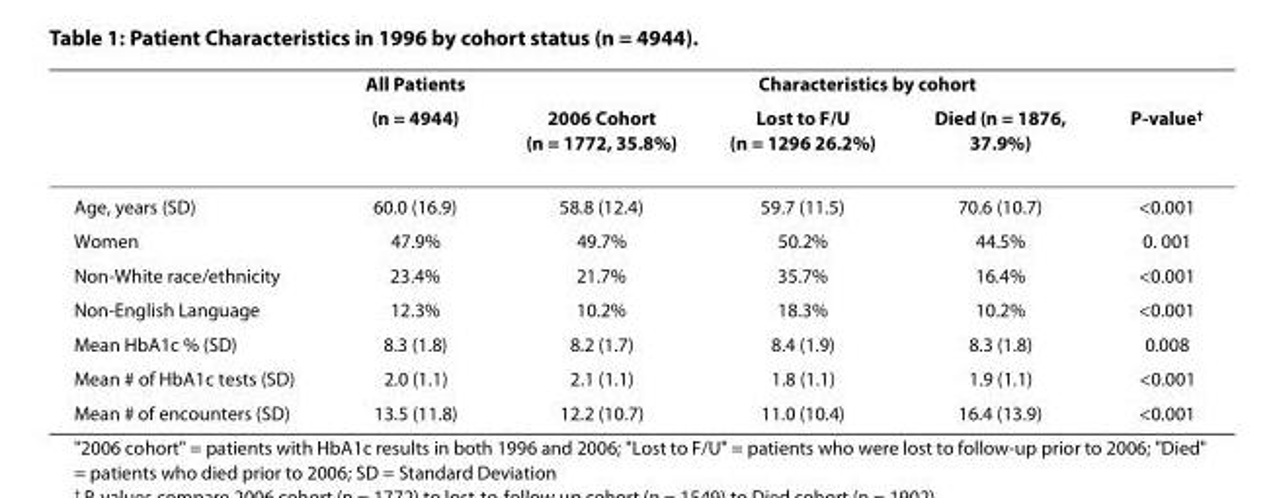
<table><thead><tr><td rowspan="2"></td><td rowspan="2">All Patients (n = 4944)</td><td colspan="4">Characteristics by cohort</td></tr><tr><td>2006 Cohort (n = 1772, 35.8%)</td><td>Lost to F/U (n = 1296 26.2%)</td><td>Died (n = 1876, 37.9%)</td><td>P-value<sup>†</sup></td></tr></thead><tbody><tr><td>Age, years (SD)</td><td>60.0 (16.9)</td><td>58.8 (12.4)</td><td>59.7 (11.5)</td><td>70.6 (10.7)</td><td>&lt;0.001</td></tr><tr><td>Women</td><td>47.9%</td><td>49.7%</td><td>50.2%</td><td>44.5%</td><td>0. 001</td></tr><tr><td>Non-White race/ethnicity</td><td>23.4%</td><td>21.7%</td><td>35.7%</td><td>16.4%</td><td>&lt;0.001</td></tr><tr><td>Non-English Language</td><td>12.3%</td><td>10.2%</td><td>18.3%</td><td>10.2%</td><td>&lt;0.001</td></tr><tr><td>Mean HbA1c % (SD)</td><td>8.3 (1.8)</td><td>8.2 (1.7)</td><td>8.4 (1.9)</td><td>8.3 (1.8)</td><td>0.008</td></tr><tr><td>Mean # of HbA1c tests (SD)</td><td>2.0 (1.1)</td><td>2.1 (1.1)</td><td>1.8 (1.1)</td><td>1.9 (1.1)</td><td>&lt;0.001</td></tr><tr><td>Mean # of encounters (SD)</td><td>13.5 (11.8)</td><td>12.2 (10.7)</td><td>11.0 (10.4)</td><td>16.4 (13.9)</td><td>&lt;0.001</td></tr></tbody></table>